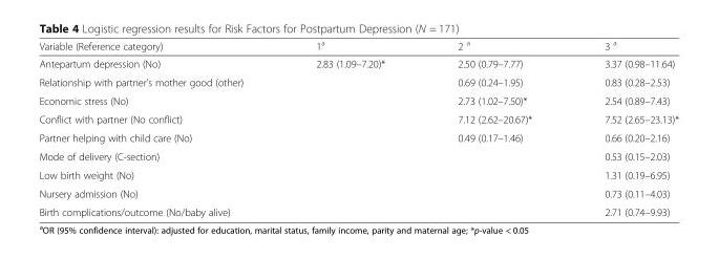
<table><thead><tr><td>Variable (Reference category)</td><td>1<sup>a</sup></td><td>2 <sup>a</sup></td><td>3 <sup>a</sup></td></tr></thead><tbody><tr><td>Antepartum depression (No)</td><td>2.83 (1.09–7.20)*</td><td>2.50 (0.79–7.77)</td><td>3.37 (0.98–11.64)</td></tr><tr><td>Relationship with partner’s mother good (other)</td><td></td><td>0.69 (0.24–1.95)</td><td>0.83 (0.28–2.53)</td></tr><tr><td>Economic stress (No)</td><td></td><td>2.73 (1.02–7.50)*</td><td>2.54 (0.89–7.43)</td></tr><tr><td>Conflict with partner (No conflict)</td><td></td><td>7.12 (2.62–20.67)*</td><td>7.52 (2.65–23.13)*</td></tr><tr><td>Partner helping with child care (No)</td><td></td><td>0.49 (0.17–1.46)</td><td>0.66 (0.20–2.16)</td></tr><tr><td>Mode of delivery (C-section)</td><td></td><td></td><td>0.53 (0.15–2.03)</td></tr><tr><td>Low birth weight (No)</td><td></td><td></td><td>1.31 (0.19–6.95)</td></tr><tr><td>Nursery admission (No)</td><td></td><td></td><td>0.73 (0.11–4.03)</td></tr><tr><td>Birth complications/outcome (No/baby alive)</td><td></td><td></td><td>2.71 (0.74–9.93)</td></tr></tbody></table>